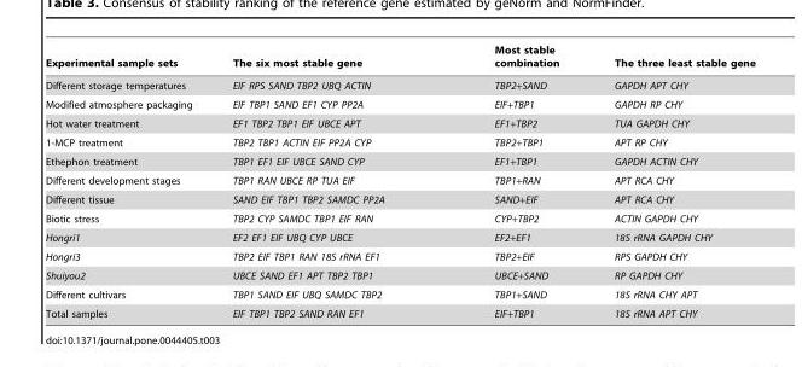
<table><thead><tr><td>Experimental sample sets</td><td>The six most stable gene</td><td>Most stable combination</td><td>The three least stable gene</td></tr></thead><tbody><tr><td>Different storage temperatures</td><td>EIF RPS SAND TBP2 UBQ ACTIN</td><td>TBP2+SAND</td><td>GAPDH APT CHY</td></tr><tr><td>Modified atmosphere packaging</td><td>EIF TBP1 SAND EF1 CYP PP2A</td><td>EIF+TBP1</td><td>GAPDH RP CHY</td></tr><tr><td>Hot water treatment</td><td>EF1 TBP2 TBP1 EIF UBCE APT</td><td>EF1+TBP2</td><td>TUA GAPDH CHY</td></tr><tr><td>1-MCP treatment</td><td>TBP2 TBP1 ACTIN EIF PP2A CYP</td><td>TBP2+TBP1</td><td>APT RP CHY</td></tr><tr><td>Ethephon treatment</td><td>TBP1 EF1 EIF UBCE SAND CYP</td><td>EF1+TBP1</td><td>GAPDH ACTIN CHY</td></tr><tr><td>Different development stages</td><td>TBP1 RAN UBCE RP TUA EIF</td><td>TBP1+RAN</td><td>APT RCA CHY</td></tr><tr><td>Different tissue</td><td>SAND EIF TBP1 TBP2 SAMDC PP2A</td><td>SAND+EIF</td><td>APT RCA CHY</td></tr><tr><td>Biotic stress</td><td>TBP2 CYP SAMDC TBP1 EIF RAN</td><td>CYP+TBP2</td><td>ACTIN GAPDH CHY</td></tr><tr><td>Hongri1</td><td>EF2 EF1 EIF UBQ CYP UBCE</td><td>EF2+EF1</td><td>18S rRNA GAPDH CHY</td></tr><tr><td>Hongri3</td><td>TBP2 EIF TBP1 RAN 18S rRNA EF1</td><td>TBP2+EIF</td><td>RPS GAPDH CHY</td></tr><tr><td>Shuiyou2</td><td>UBCE SAND EF1 APT TBP2 TBP1</td><td>UBCE+SAND</td><td>RP GAPDH CHY</td></tr><tr><td>Different cultivars</td><td>TBP1 SAND EIF UBQ SAMDC TBP2</td><td>TBP1+SAND</td><td>18S rRNA CHY APT</td></tr><tr><td>Total samples</td><td>EIF TBP1 TBP2 SAND RAN EF1</td><td>EIF+TBP1</td><td>18S rRNA APT CHY</td></tr></tbody></table>